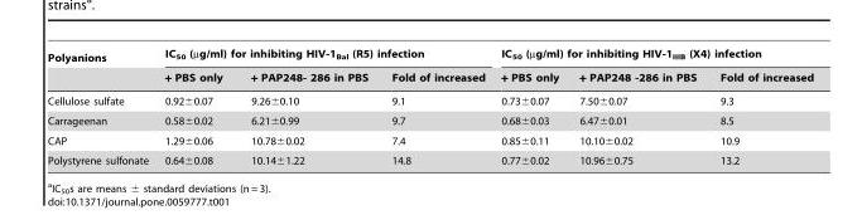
<table><thead><tr><td rowspan="2">Polyanions</td><td colspan="3">IC<sub>50</sub> (µg/ml) for inhibiting HIV-1<sub>Bal</sub> (R5) infection</td><td colspan="3">IC<sub>50</sub> (µg/ml) for inhibiting HIV-1<sub>IIIB</sub> (X4) infection</td></tr><tr><td>+ PBS only</td><td>+ PAP248- 286 in PBS</td><td>Fold of increased</td><td>+ PBS only</td><td>+ PAP248 -286 in PBS</td><td>Fold of increased</td></tr></thead><tbody><tr><td>Cellulose sulfate</td><td>0.92±0.07</td><td>9.26±0.10</td><td>9.1</td><td>0.73±0.07</td><td>7.50±0.07</td><td>9.3</td></tr><tr><td>Carrageenan</td><td>0.58±0.02</td><td>6.21±0.99</td><td>9.7</td><td>0.68±0.03</td><td>6.47±0.01</td><td>8.5</td></tr><tr><td>CAP</td><td>1.29±0.06</td><td>10.78±0.02</td><td>7.4</td><td>0.85±0.11</td><td>10.10±0.02</td><td>10.9</td></tr><tr><td>Polystyrene sulfonate</td><td>0.64±0.08</td><td>10.14±1.22</td><td>14.8</td><td>0.77±0.02</td><td>10.96±0.75</td><td>13.2</td></tr></tbody></table>